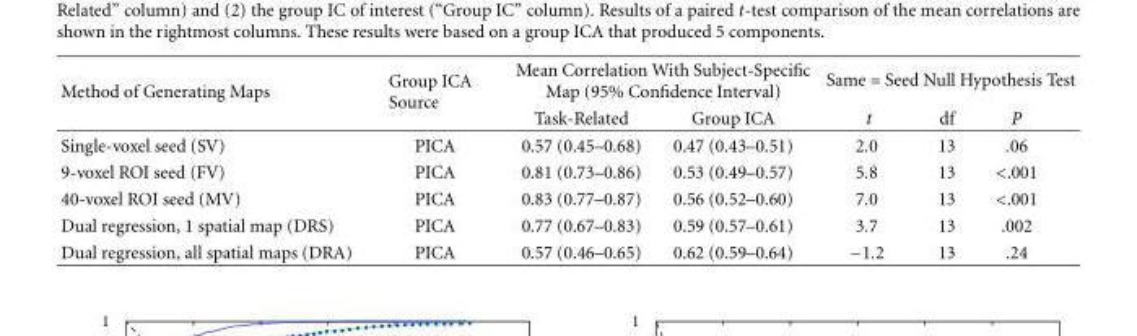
<table><thead><tr><td rowspan="2">Method of Generating Maps</td><td rowspan="2">Group ICA Source</td><td colspan="2">Mean Correlation With Subject-Specific Map (95% Confidence Interval)</td><td colspan="3">Same = Seed Null Hypothesis Test</td></tr><tr><td>Task-Related</td><td>Group ICA</td><td>t</td><td>df</td><td>P</td></tr></thead><tbody><tr><td>Single-voxel seed (SV)</td><td>PICA</td><td>0.57 (0.45–0.68)</td><td>0.47 (0.43–0.51)</td><td>2.0</td><td>13</td><td>.06</td></tr><tr><td>9-voxel ROI seed (FV)</td><td>PICA</td><td>0.81 (0.73–0.86)</td><td>0.53 (0.49–0.57)</td><td>5.8</td><td>13</td><td>&lt;.001</td></tr><tr><td>40-voxel ROI seed (MV)</td><td>PICA</td><td>0.83 (0.77–0.87)</td><td>0.56 (0.52–0.60)</td><td>7.0</td><td>13</td><td>&lt;.001</td></tr><tr><td>Dual regression, 1 spatial map (DRS)</td><td>PICA</td><td>0.77 (0.67–0.83)</td><td>0.59 (0.57–0.61)</td><td>3.7</td><td>13</td><td>.002</td></tr><tr><td>Dual regression, all spatial maps (DRA)</td><td>PICA</td><td>0.57 (0.46–0.65)</td><td>0.62 (0.59–0.64)</td><td>−1.2</td><td>13</td><td>.24</td></tr></tbody></table>